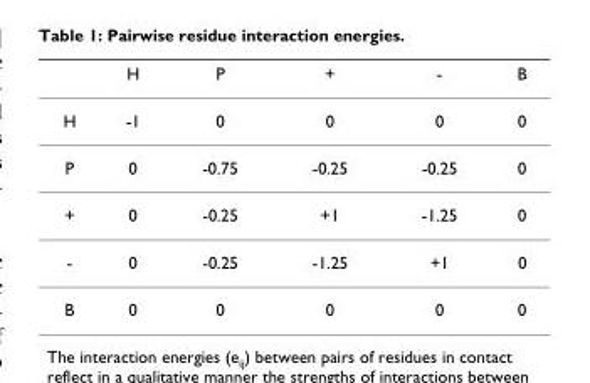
<table><thead><tr><td></td><td>H</td><td>P</td><td>+</td><td>-</td><td>B</td></tr></thead><tbody><tr><td>H</td><td>-1</td><td>0</td><td>0</td><td>0</td><td>0</td></tr><tr><td>P</td><td>0</td><td>-0.75</td><td>-0.25</td><td>-0.25</td><td>0</td></tr><tr><td>+</td><td>0</td><td>-0.25</td><td>+1</td><td>-1.25</td><td>0</td></tr><tr><td>-</td><td>0</td><td>-0.25</td><td>-1.25</td><td>+1</td><td>0</td></tr><tr><td>B</td><td>0</td><td>0</td><td>0</td><td>0</td><td>0</td></tr></tbody></table>